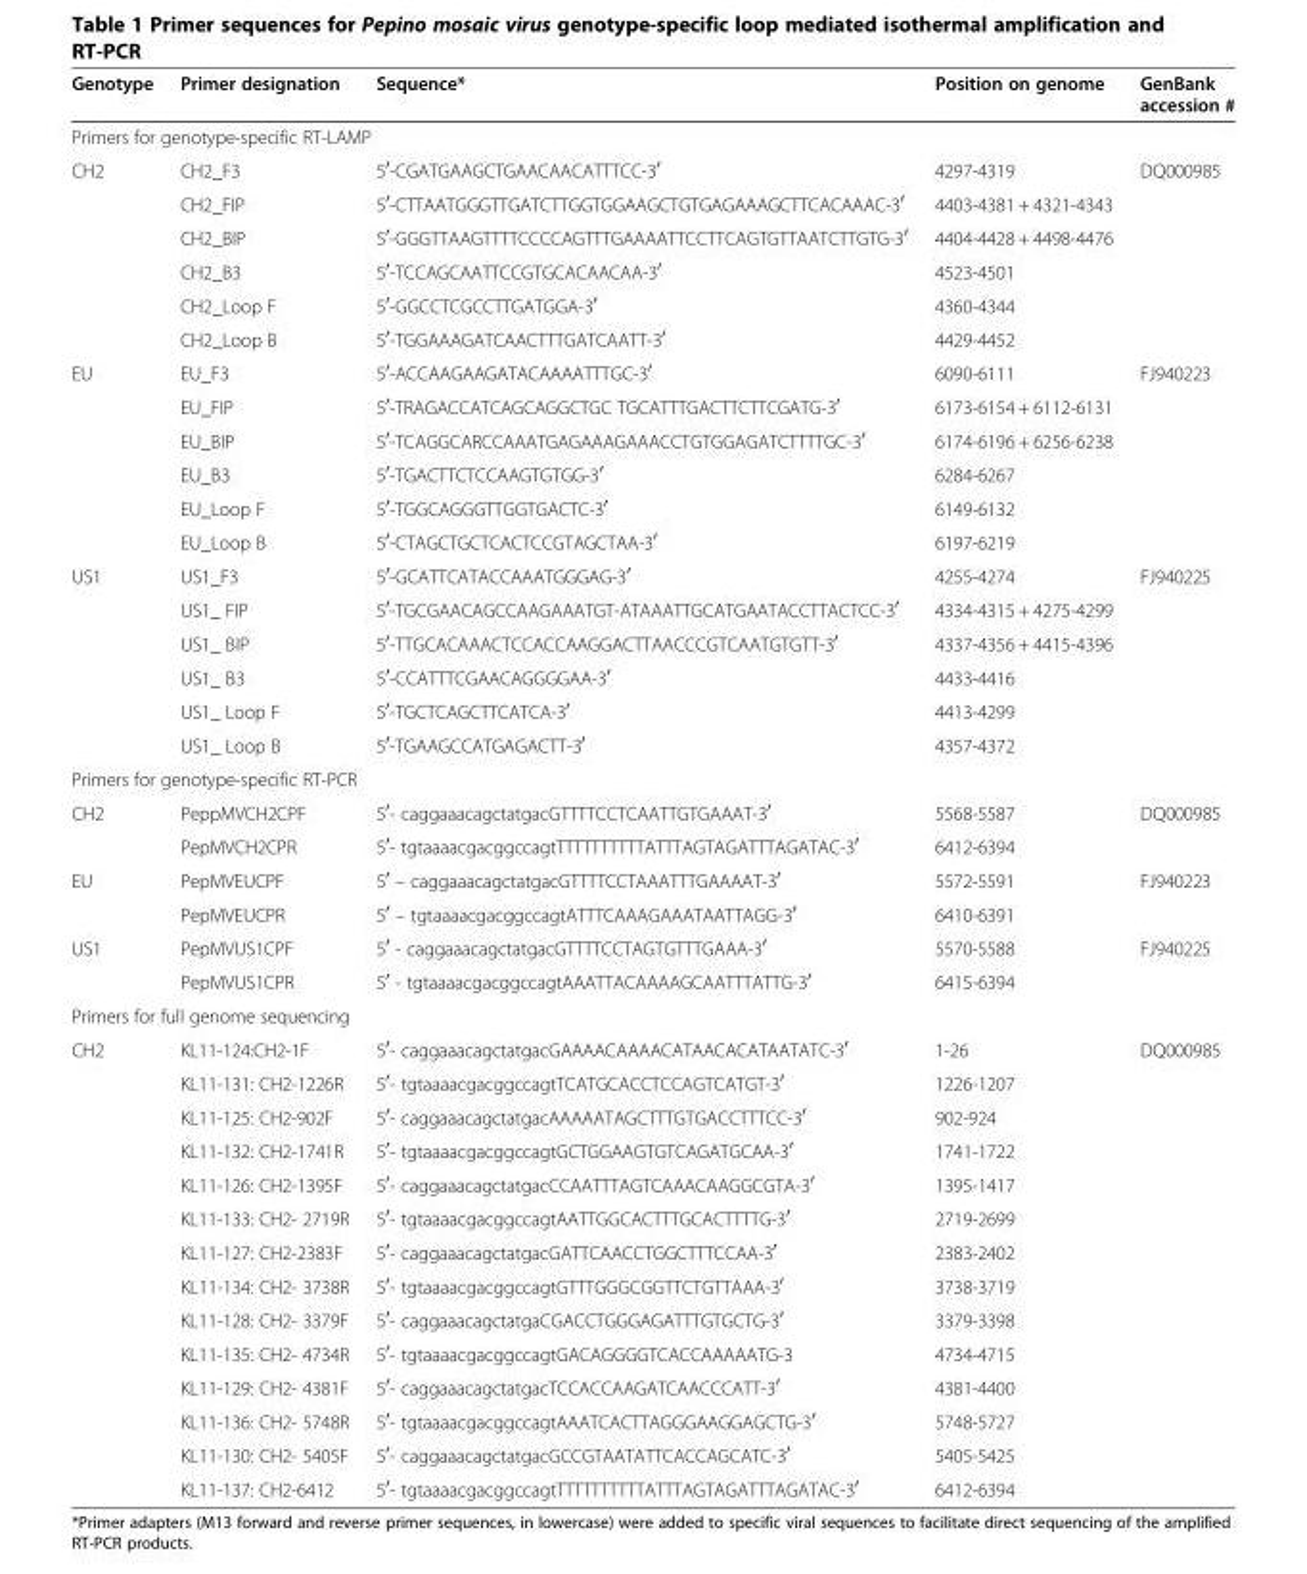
<table><thead><tr><td>Genotype</td><td>Primer designation</td><td>Sequence*</td><td>Position on genome</td><td>GenBank accession #</td></tr></thead><tbody><tr><td colspan="5">Primers for genotype-specific RT-LAMP</td></tr><tr><td rowspan="6">CH2</td><td>CH2_F3</td><td>5<sup>′</sup>-CGATGAAGCTGAACAACATTTCC-3<sup>′</sup></td><td>4297-4319</td><td rowspan="6">DQ000985</td></tr><tr><td>CH2_FIP</td><td>5<sup>′</sup>-CTTAATGGGTTGATCTTGGTGGAAGCTGTGAGAAAGCTTCACAAAC-3<sup>′</sup></td><td>4403-4381 + 4321-4343</td></tr><tr><td>CH2_BIP</td><td>5<sup>′</sup>-GGGTTAAGTTTTCCCCAGTTTGAAAATTCCTTCAGTGTTAATCTTGTG-3<sup>′</sup></td><td>4404-4428 + 4498-4476</td></tr><tr><td>CH2_B3</td><td>5<sup>′</sup>-TCCAGCAATTCCGTGCACAACAA-3<sup>′</sup></td><td>4523-4501</td></tr><tr><td>CH2_Loop F</td><td>5<sup>′</sup>-GGCCTCGCCTTGATGGA-3<sup>′</sup></td><td>4360-4344</td></tr><tr><td>CH2_Loop B</td><td>5<sup>′</sup>-TGGAAAGATCAACTTTGATCAATT-3<sup>′</sup></td><td>4429-4452</td></tr><tr><td rowspan="6">EU</td><td>EU_F3</td><td>5<sup>′</sup>-ACCAAGAAGATACAAAATTTGC-3<sup>′</sup></td><td>6090-6111</td><td rowspan="6">FJ940223</td></tr><tr><td>EU_FIP</td><td>5<sup>′</sup>-TRAGACCATCAGCAGGCTGC TGCATTTGACTTCTTCGATG-3<sup>′</sup></td><td>6173-6154 + 6112-6131</td></tr><tr><td>EU_BIP</td><td>5<sup>′</sup>-TCAGGCARCCAAATGAGAAAGAAACCTGTGGAGATCTTTTGC-3<sup>′</sup></td><td>6174-6196 + 6256-6238</td></tr><tr><td>EU_B3</td><td>5<sup>′</sup>-TGACTTCTCCAAGTGTGG-3<sup>′</sup></td><td>6284-6267</td></tr><tr><td>EU_Loop F</td><td>5<sup>′</sup>-TGGCAGGGTTGGTGACTC-3<sup>′</sup></td><td>6149-6132</td></tr><tr><td>EU_Loop B</td><td>5<sup>′</sup>-CTAGCTGCTCACTCCGTAGCTAA-3<sup>′</sup></td><td>6197-6219</td></tr><tr><td rowspan="6">US1</td><td>US1_F3</td><td>5<sup>′</sup>-GCATTCATACCAAATGGGAG-3<sup>′</sup></td><td>4255-4274</td><td rowspan="6">FJ940225</td></tr><tr><td>US1_ FIP</td><td>5<sup>′</sup>-TGCGAACAGCCAAGAAATGT-ATAAATTGCATGAATACCTTACTCC-3<sup>′</sup></td><td>4334-4315 + 4275-4299</td></tr><tr><td>US1_ BIP</td><td>5<sup>′</sup>-TTGCACAAACTCCACCAAGGACTTAACCCGTCAATGTGTT-3<sup>′</sup></td><td>4337-4356 + 4415-4396</td></tr><tr><td>US1_ B3</td><td>5<sup>′</sup>-CCATTTCGAACAGGGGAA-3<sup>′</sup></td><td>4433-4416</td></tr><tr><td>US1_ Loop F</td><td>5<sup>′</sup>-TGCTCAGCTTCATCA-3<sup>′</sup></td><td>4413-4299</td></tr><tr><td>US1_ Loop B</td><td>5<sup>′</sup>-TGAAGCCATGAGACTT-3<sup>′</sup></td><td>4357-4372</td></tr><tr><td colspan="5">Primers for genotype-specific RT-PCR</td></tr><tr><td rowspan="2">CH2</td><td>PeppMVCH2CPF</td><td>5<sup>′</sup>- caggaaacagctatgacGTTTTCCTCAATTGTGAAAT-3<sup>′</sup></td><td>5568-5587</td><td rowspan="2">DQ000985</td></tr><tr><td>PepMVCH2CPR</td><td>5<sup>′</sup>- tgtaaaacgacggccagtTTTTTTTTTTATTTAGTAGATTTAGATAC-3<sup>′</sup></td><td>6412-6394</td></tr><tr><td rowspan="2">EU</td><td>PepMVEUCPF</td><td>5<sup>′</sup> – caggaaacagctatgacGTTTTCCTAAATTTGAAAAT-3<sup>′</sup></td><td>5572-5591</td><td rowspan="2">FJ940223</td></tr><tr><td>PepMVEUCPR</td><td>5<sup>′</sup> – tgtaaaacgacggccagtATTTCAAAGAAATAATTAGG-3<sup>′</sup></td><td>6410-6391</td></tr><tr><td rowspan="2">US1</td><td>PepMVUS1CPF</td><td>5<sup>′</sup> - caggaaacagctatgacGTTTTCCTAGTGTTTGAAA-3<sup>′</sup></td><td>5570-5588</td><td rowspan="2">FJ940225</td></tr><tr><td>PepMVUS1CPR</td><td>5<sup>′</sup> - tgtaaaacgacggccagtAAATTACAAAAGCAATTTATTG-3<sup>′</sup></td><td>6415-6394</td></tr><tr><td colspan="5">Primers for full genome sequencing</td></tr><tr><td rowspan="14">CH2</td><td>KL11-124:CH2-1F</td><td>5<sup>′</sup>- caggaaacagctatgacGAAAACAAAACATAACACATAATATC-3<sup>′</sup></td><td>1-26</td><td rowspan="14">DQ000985</td></tr><tr><td>KL11-131: CH2-1226R</td><td>5<sup>′</sup>- tgtaaaacgacggccagtTCATGCACCTCCAGTCATGT-3<sup>′</sup></td><td>1226-1207</td></tr><tr><td>KL11-125: CH2-902F</td><td>5<sup>′</sup>- caggaaacagctatgacAAAAATAGCTTTGTGACCTTTCC-3<sup>′</sup></td><td>902-924</td></tr><tr><td>KL11-132: CH2-1741R</td><td>5<sup>′</sup>- tgtaaaacgacggccagtGCTGGAAGTGTCAGATGCAA-3<sup>′</sup></td><td>1741-1722</td></tr><tr><td>KL11-126: CH2-1395F</td><td>5<sup>′</sup>- caggaaacagctatgacCCAATTTAGTCAAACAAGGCGTA-3<sup>′</sup></td><td>1395-1417</td></tr><tr><td>KL11-133: CH2- 2719R</td><td>5<sup>′</sup>- tgtaaaacgacggccagtAATTGGCACTTTGCACTTTTG-3<sup>′</sup></td><td>2719-2699</td></tr><tr><td>KL11-127: CH2-2383F</td><td>5<sup>′</sup>- caggaaacagctatgacGATTCAACCTGGCTTTCCAA-3<sup>′</sup></td><td>2383-2402</td></tr><tr><td>KL11-134: CH2- 3738R</td><td>5<sup>′</sup>- tgtaaaacgacggccagtGTTTGGGCGGTTCTGTTAAA-3<sup>′</sup></td><td>3738-3719</td></tr><tr><td>KL11-128: CH2- 3379F</td><td>5<sup>′</sup>- caggaaacagctatgaCGACCTGGGAGATTTGTGCTG-3<sup>′</sup></td><td>3379-3398</td></tr><tr><td>KL11-135: CH2- 4734R</td><td>5<sup>′</sup>- tgtaaaacgacggccagtGACAGGGGTCACCAAAAATG-3</td><td>4734-4715</td></tr><tr><td>KL11-129: CH2- 4381F</td><td>5<sup>′</sup>- caggaaacagctatgacTCCACCAAGATCAACCCATT-3<sup>′</sup></td><td>4381-4400</td></tr><tr><td>KL11-136: CH2- 5748R</td><td>5<sup>′</sup>- tgtaaaacgacggccagtAAATCACTTAGGGAAGGAGCTG-3<sup>′</sup></td><td>5748-5727</td></tr><tr><td>KL11-130: CH2- 5405F</td><td>5<sup>′</sup>- caggaaacagctatgacGCCGTAATATTCACCAGCATC-3<sup>′</sup></td><td>5405-5425</td></tr><tr><td>KL11-137: CH2-6412</td><td>5<sup>′</sup>- tgtaaaacgacggccagtTTTTTTTTTTATTTAGTAGATTTAGATAC-3<sup>′</sup></td><td>6412-6394</td></tr></tbody></table>